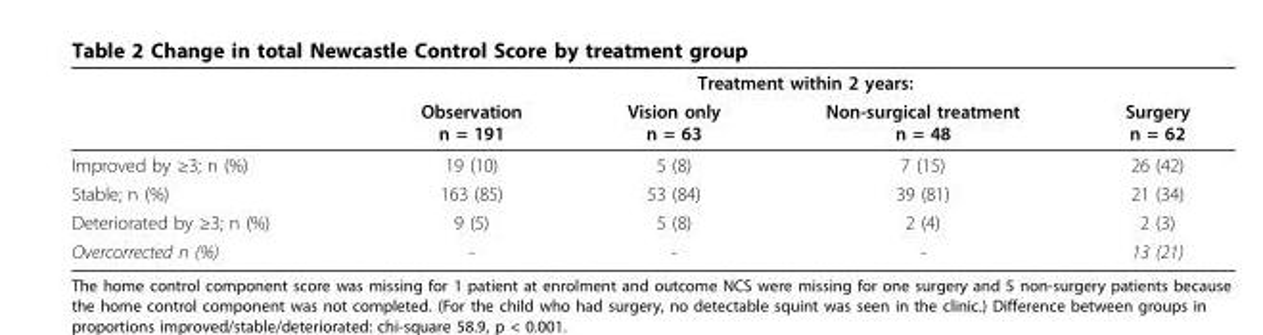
<table><thead><tr><td rowspan="2"></td><td colspan="4">Treatment within 2 years:</td></tr><tr><td>Observation n = 191</td><td>Vision only n = 63</td><td>Non-surgical treatment n = 48</td><td>Surgery n = 62</td></tr></thead><tbody><tr><td>Improved by ≥3; n (%)</td><td>19 (10)</td><td>5 (8)</td><td>7 (15)</td><td>26 (42)</td></tr><tr><td>Stable; n (%)</td><td>163 (85)</td><td>53 (84)</td><td>39 (81)</td><td>21 (34)</td></tr><tr><td>Deteriorated by ≥3; n (%)</td><td>9 (5)</td><td>5 (8)</td><td>2 (4)</td><td>2 (3)</td></tr><tr><td>Overcorrected n (%)</td><td>-</td><td>-</td><td>-</td><td>13 (21)</td></tr></tbody></table>